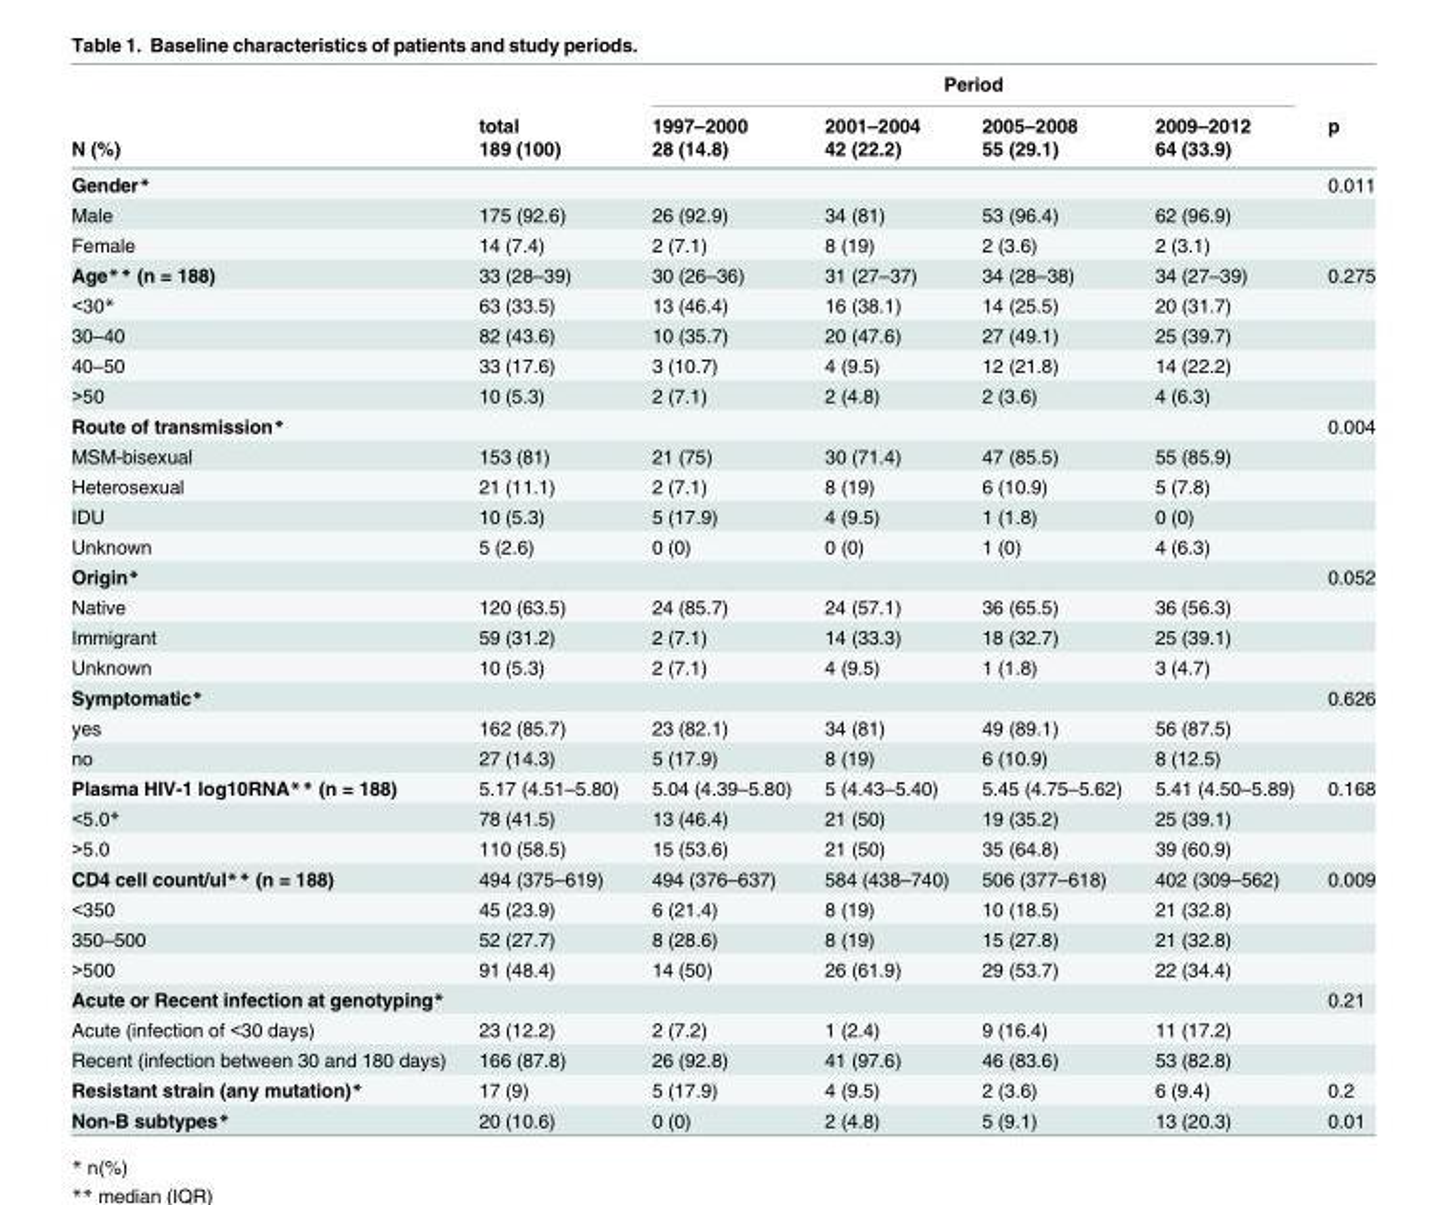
<table><thead><tr><td rowspan="3">N (%)</td><td rowspan="3">total 189 (100)</td><td colspan="4">Period</td><td rowspan="3">p</td></tr><tr><td rowspan="2">1997–2000 28 (14.8)</td><td rowspan="2">2001–2004 42 (22.2)</td><td rowspan="2">2005–2008 55 (29.1)</td><td rowspan="2">2009–2012 64 (33.9)</td></tr><tr></tr></thead><tbody><tr><td>Gender*</td><td></td><td></td><td></td><td></td><td></td><td>0.011</td></tr><tr><td>Male</td><td>175 (92.6)</td><td>26 (92.9)</td><td>34 (81)</td><td>53 (96.4)</td><td>62 (96.9)</td><td></td></tr><tr><td>Female</td><td>14 (7.4)</td><td>2 (7.1)</td><td>8 (19)</td><td>2 (3.6)</td><td>2 (3.1)</td><td></td></tr><tr><td>Age** (n = 188)</td><td>33 (28–39)</td><td>30 (26–36)</td><td>31 (27–37)</td><td>34 (28–38)</td><td>34 (27–39)</td><td>0.275</td></tr><tr><td>&lt;30*</td><td>63 (33.5)</td><td>13 (46.4)</td><td>16 (38.1)</td><td>14 (25.5)</td><td>20 (31.7)</td><td></td></tr><tr><td>30–40</td><td>82 (43.6)</td><td>10 (35.7)</td><td>20 (47.6)</td><td>27 (49.1)</td><td>25 (39.7)</td><td></td></tr><tr><td>40–50</td><td>33 (17.6)</td><td>3 (10.7)</td><td>4 (9.5)</td><td>12 (21.8)</td><td>14 (22.2)</td><td></td></tr><tr><td>&gt;50</td><td>10 (5.3)</td><td>2 (7.1)</td><td>2 (4.8)</td><td>2 (3.6)</td><td>4 (6.3)</td><td></td></tr><tr><td>Route of transmission*</td><td></td><td></td><td></td><td></td><td></td><td>0.004</td></tr><tr><td>MSM-bisexual</td><td>153 (81)</td><td>21 (75)</td><td>30 (71.4)</td><td>47 (85.5)</td><td>55 (85.9)</td><td></td></tr><tr><td>Heterosexual</td><td>21 (11.1)</td><td>2 (7.1)</td><td>8 (19)</td><td>6 (10.9)</td><td>5 (7.8)</td><td></td></tr><tr><td>IDU</td><td>10 (5.3)</td><td>5 (17.9)</td><td>4 (9.5)</td><td>1 (1.8)</td><td>0 (0)</td><td></td></tr><tr><td>Unknown</td><td>5 (2.6)</td><td>0 (0)</td><td>0 (0)</td><td>1 (0)</td><td>4 (6.3)</td><td></td></tr><tr><td>Origin*</td><td></td><td></td><td></td><td></td><td></td><td>0.052</td></tr><tr><td>Native</td><td>120 (63.5)</td><td>24 (85.7)</td><td>24 (57.1)</td><td>36 (65.5)</td><td>36 (56.3)</td><td></td></tr><tr><td>Immigrant</td><td>59 (31.2)</td><td>2 (7.1)</td><td>14 (33.3)</td><td>18 (32.7)</td><td>25 (39.1)</td><td></td></tr><tr><td>Unknown</td><td>10 (5.3)</td><td>2 (7.1)</td><td>4 (9.5)</td><td>1 (1.8)</td><td>3 (4.7)</td><td></td></tr><tr><td>Symptomatic*</td><td></td><td></td><td></td><td></td><td></td><td>0.626</td></tr><tr><td>yes</td><td>162 (85.7)</td><td>23 (82.1)</td><td>34 (81)</td><td>49 (89.1)</td><td>56 (87.5)</td><td></td></tr><tr><td>no</td><td>27 (14.3)</td><td>5 (17.9)</td><td>8 (19)</td><td>6 (10.9)</td><td>8 (12.5)</td><td></td></tr><tr><td>Plasma HIV-1 log10RNA** (n = 188)</td><td>5.17 (4.51–5.80)</td><td>5.04 (4.39–5.80)</td><td>5 (4.43–5.40)</td><td>5.45 (4.75–5.62)</td><td>5.41 (4.50–5.89)</td><td>0.168</td></tr><tr><td>&lt;5.0*</td><td>78 (41.5)</td><td>13 (46.4)</td><td>21 (50)</td><td>19 (35.2)</td><td>25 (39.1)</td><td></td></tr><tr><td>&gt;5.0</td><td>110 (58.5)</td><td>15 (53.6)</td><td>21 (50)</td><td>35 (64.8)</td><td>39 (60.9)</td><td></td></tr><tr><td>CD4 cell count/ul** (n = 188)</td><td>494 (375–619)</td><td>494 (376–637)</td><td>584 (438–740)</td><td>506 (377–618)</td><td>402 (309–562)</td><td>0.009</td></tr><tr><td>&lt;350</td><td>45 (23.9)</td><td>6 (21.4)</td><td>8 (19)</td><td>10 (18.5)</td><td>21 (32.8)</td><td></td></tr><tr><td>350–500</td><td>52 (27.7)</td><td>8 (28.6)</td><td>8 (19)</td><td>15 (27.8)</td><td>21 (32.8)</td><td></td></tr><tr><td>&gt;500</td><td>91 (48.4)</td><td>14 (50)</td><td>26 (61.9)</td><td>29 (53.7)</td><td>22 (34.4)</td><td></td></tr><tr><td>Acute or Recent infection at genotyping*</td><td></td><td></td><td></td><td></td><td></td><td>0.21</td></tr><tr><td>Acute (infection of &lt;30 days)</td><td>23 (12.2)</td><td>2 (7.2)</td><td>1 (2.4)</td><td>9 (16.4)</td><td>11 (17.2)</td><td></td></tr><tr><td>Recent (infection between 30 and 180 days)</td><td>166 (87.8)</td><td>26 (92.8)</td><td>41 (97.6)</td><td>46 (83.6)</td><td>53 (82.8)</td><td></td></tr><tr><td>Resistant strain (any mutation)*</td><td>17 (9)</td><td>5 (17.9)</td><td>4 (9.5)</td><td>2 (3.6)</td><td>6 (9.4)</td><td>0.2</td></tr><tr><td>Non-B subtypes*</td><td>20 (10.6)</td><td>0 (0)</td><td>2 (4.8)</td><td>5 (9.1)</td><td>13 (20.3)</td><td>0.01</td></tr></tbody></table>